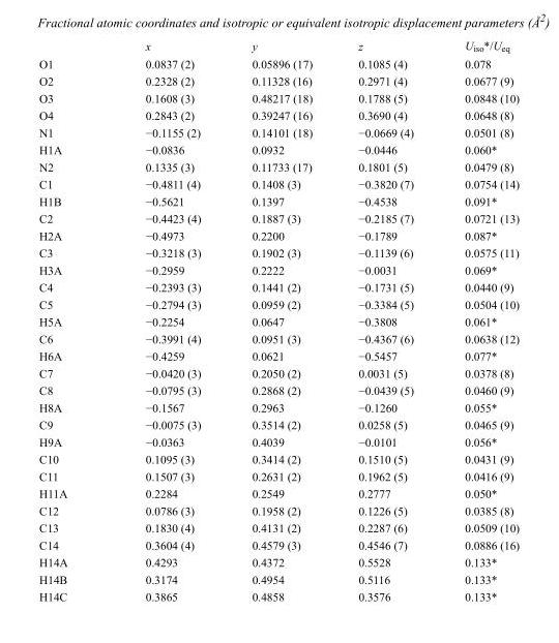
<table><thead><tr><td></td><td>x</td><td>y</td><td>z</td><td>U<sub>iso</sub>*/U<sub>eq</sub></td></tr></thead><tbody><tr><td>O1</td><td>0.0837 (2)</td><td>0.05896 (17)</td><td>0.1085 (4)</td><td>0.078</td></tr><tr><td>O2</td><td>0.2328 (2)</td><td>0.11328 (16)</td><td>0.2971 (4)</td><td>0.0677 (9)</td></tr><tr><td>O3</td><td>0.1608 (3)</td><td>0.48217 (18)</td><td>0.1788 (5)</td><td>0.0848 (10)</td></tr><tr><td>O4</td><td>0.2843 (2)</td><td>0.39247 (16)</td><td>0.3690 (4)</td><td>0.0648 (8)</td></tr><tr><td>N1</td><td>−0.1155 (2)</td><td>0.14101 (18)</td><td>−0.0669 (4)</td><td>0.0501 (8)</td></tr><tr><td>H1A</td><td>−0.0836</td><td>0.0932</td><td>−0.0446</td><td>0.060*</td></tr><tr><td>N2</td><td>0.1335 (3)</td><td>0.11733 (17)</td><td>0.1801 (5)</td><td>0.0479 (8)</td></tr><tr><td>C1</td><td>−0.4811 (4)</td><td>0.1408 (3)</td><td>−0.3820 (7)</td><td>0.0754 (14)</td></tr><tr><td>H1B</td><td>−0.5621</td><td>0.1397</td><td>−0.4538</td><td>0.091*</td></tr><tr><td>C2</td><td>−0.4423 (4)</td><td>0.1887 (3)</td><td>−0.2185 (7)</td><td>0.0721 (13)</td></tr><tr><td>H2A</td><td>−0.4973</td><td>0.2200</td><td>−0.1789</td><td>0.087*</td></tr><tr><td>C3</td><td>−0.3218 (3)</td><td>0.1902 (3)</td><td>−0.1139 (6)</td><td>0.0575 (11)</td></tr><tr><td>H3A</td><td>−0.2959</td><td>0.2222</td><td>−0.0031</td><td>0.069*</td></tr><tr><td>C4</td><td>−0.2393 (3)</td><td>0.1441 (2)</td><td>−0.1731 (5)</td><td>0.0440 (9)</td></tr><tr><td>C5</td><td>−0.2794 (3)</td><td>0.0959 (2)</td><td>−0.3384 (5)</td><td>0.0504 (10)</td></tr><tr><td>H5A</td><td>−0.2254</td><td>0.0647</td><td>−0.3808</td><td>0.061*</td></tr><tr><td>C6</td><td>−0.3991 (4)</td><td>0.0951 (3)</td><td>−0.4367 (6)</td><td>0.0638 (12)</td></tr><tr><td>H6A</td><td>−0.4259</td><td>0.0621</td><td>−0.5457</td><td>0.077*</td></tr><tr><td>C7</td><td>−0.0420 (3)</td><td>0.2050 (2)</td><td>0.0031 (5)</td><td>0.0378 (8)</td></tr><tr><td>C8</td><td>−0.0795 (3)</td><td>0.2868 (2)</td><td>−0.0439 (5)</td><td>0.0460 (9)</td></tr><tr><td>H8A</td><td>−0.1567</td><td>0.2963</td><td>−0.1260</td><td>0.055*</td></tr><tr><td>C9</td><td>−0.0075 (3)</td><td>0.3514 (2)</td><td>0.0258 (5)</td><td>0.0465 (9)</td></tr><tr><td>H9A</td><td>−0.0363</td><td>0.4039</td><td>−0.0101</td><td>0.056*</td></tr><tr><td>C10</td><td>0.1095 (3)</td><td>0.3414 (2)</td><td>0.1510 (5)</td><td>0.0431 (9)</td></tr><tr><td>C11</td><td>0.1507 (3)</td><td>0.2631 (2)</td><td>0.1962 (5)</td><td>0.0416 (9)</td></tr><tr><td>H11A</td><td>0.2284</td><td>0.2549</td><td>0.2777</td><td>0.050*</td></tr><tr><td>C12</td><td>0.0786 (3)</td><td>0.1958 (2)</td><td>0.1226 (5)</td><td>0.0385 (8)</td></tr><tr><td>C13</td><td>0.1830 (4)</td><td>0.4131 (2)</td><td>0.2287 (6)</td><td>0.0509 (10)</td></tr><tr><td>C14</td><td>0.3604 (4)</td><td>0.4579 (3)</td><td>0.4546 (7)</td><td>0.0886 (16)</td></tr><tr><td>H14A</td><td>0.4293</td><td>0.4372</td><td>0.5528</td><td>0.133*</td></tr><tr><td>H14B</td><td>0.3174</td><td>0.4954</td><td>0.5116</td><td>0.133*</td></tr><tr><td>H14C</td><td>0.3865</td><td>0.4858</td><td>0.3576</td><td>0.133*</td></tr></tbody></table>